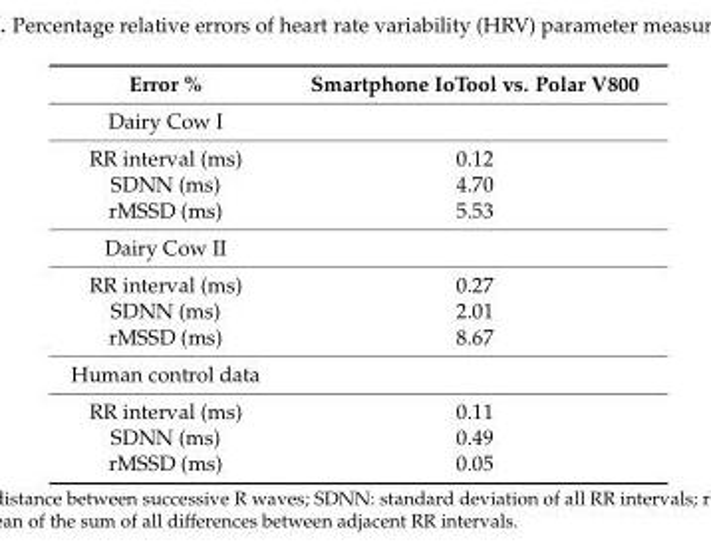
<table><thead><tr><td>Error %</td><td>Smartphone IoTool vs. Polar V800</td></tr></thead><tbody><tr><td colspan="2">Dairy Cow I</td></tr><tr><td>RR interval (ms)</td><td>0.12</td></tr><tr><td>SDNN (ms)</td><td>4.70</td></tr><tr><td>rMSSD (ms)</td><td>5.53</td></tr><tr><td colspan="2">Dairy Cow II</td></tr><tr><td>RR interval (ms)</td><td>0.27</td></tr><tr><td>SDNN (ms)</td><td>2.01</td></tr><tr><td>rMSSD (ms)</td><td>8.67</td></tr><tr><td colspan="2">Human control data</td></tr><tr><td>RR interval (ms)</td><td>0.11</td></tr><tr><td>SDNN (ms)</td><td>0.49</td></tr><tr><td>rMSSD (ms)</td><td>0.05</td></tr></tbody></table>